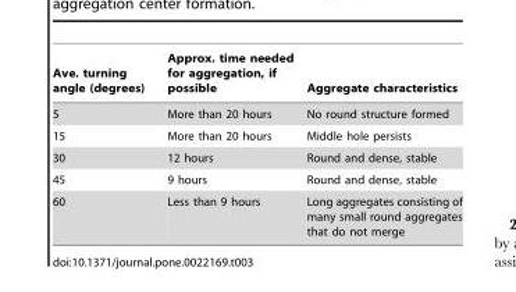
<table><thead><tr><td>Ave. turning angle (degrees)</td><td>Approx. time needed for aggregation, if possible</td><td>Aggregate characteristics</td></tr></thead><tbody><tr><td>5</td><td>More than 20 hours</td><td>No round structure formed</td></tr><tr><td>15</td><td>More than 20 hours</td><td>Middle hole persists</td></tr><tr><td>30</td><td>12 hours</td><td>Round and dense, stable</td></tr><tr><td>45</td><td>9 hours</td><td>Round and dense, stable</td></tr><tr><td>60</td><td>Less than 9 hours</td><td>Long aggregates consisting of many small round aggregates that do not merge</td></tr></tbody></table>